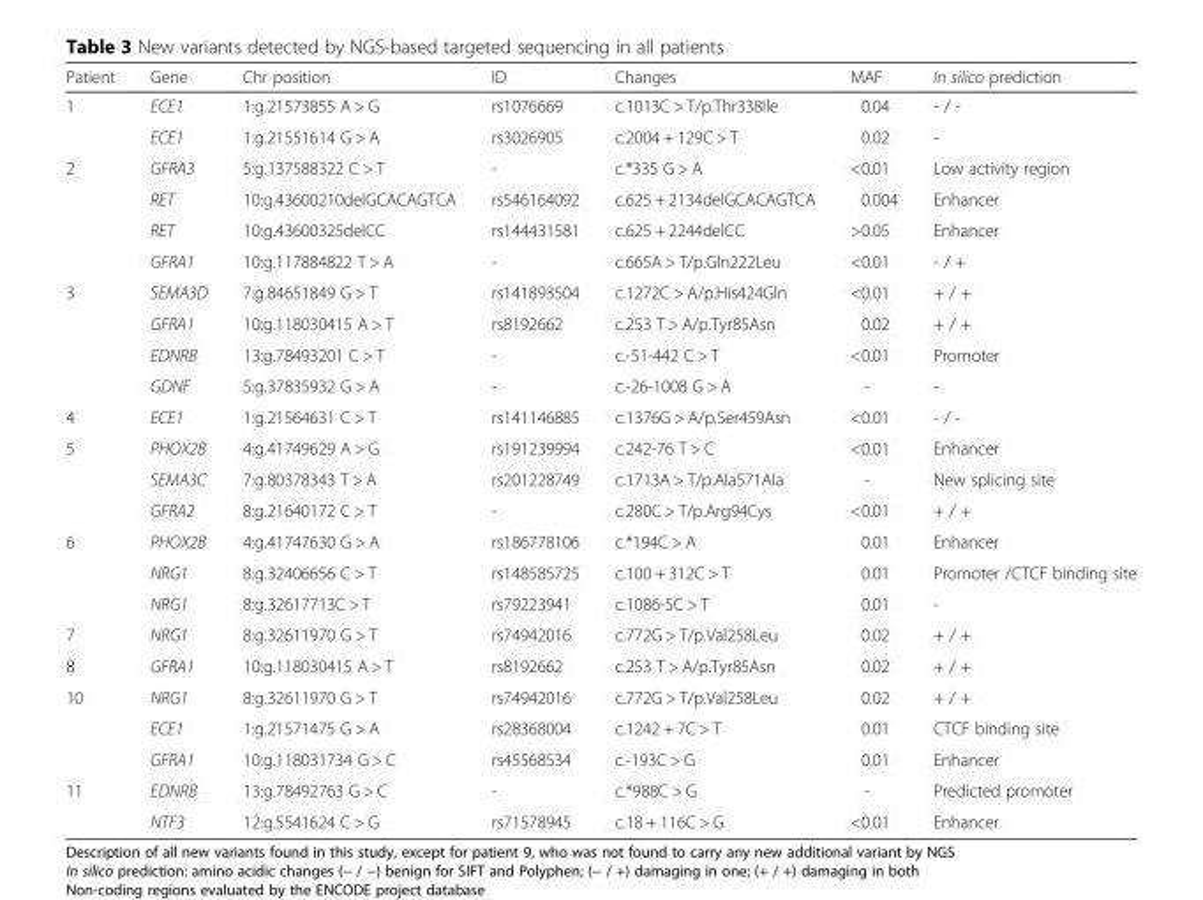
<table><thead><tr><td>Patient</td><td>Gene</td><td>Chr position</td><td>ID</td><td>Changes</td><td>MAF</td><td>In silico prediction</td></tr></thead><tbody><tr><td rowspan="2">1</td><td>ECE1</td><td>1:g.21573855 A &gt; G</td><td>rs1076669</td><td>c.1013C &gt; T/p.Thr338Ile</td><td>0.04</td><td>- / -</td></tr><tr><td>ECE1</td><td>1:g.21551614 G &gt; A</td><td>rs3026905</td><td>c.2004 + 129C &gt; T</td><td>0.02</td><td>-</td></tr><tr><td rowspan="4">2</td><td>GFRA3</td><td>5:g.137588322 C &gt; T</td><td>-</td><td>c.*335 G &gt; A</td><td>&lt;0.01</td><td>Low activity region</td></tr><tr><td>RET</td><td>10:g.43600210delGCACAGTCA</td><td>rs546164092</td><td>c.625 + 2134delGCACAGTCA</td><td>0.004</td><td>Enhancer</td></tr><tr><td>RET</td><td>10:g.43600325delCC</td><td>rs144431581</td><td>c.625 + 2244delCC</td><td>&gt;0.05</td><td>Enhancer</td></tr><tr><td>GFRA1</td><td>10:g.117884822 T &gt; A</td><td>-</td><td>c.665A &gt; T/p.Gln222Leu</td><td>&lt;0.01</td><td>- / +</td></tr><tr><td rowspan="4">3</td><td>SEMA3D</td><td>7:g.84651849 G &gt; T</td><td>rs141893504</td><td>c.1272C &gt; A/p.His424Gln</td><td>&lt;0.01</td><td>+ / +</td></tr><tr><td>GFRA1</td><td>10:g.118030415 A &gt; T</td><td>rs8192662</td><td>c.253 T &gt; A/p.Tyr85Asn</td><td>0.02</td><td>+ / +</td></tr><tr><td>EDNRB</td><td>13:g.78493201 C &gt; T</td><td>-</td><td>c.-51-442 C &gt; T</td><td>&lt;0.01</td><td>Promoter</td></tr><tr><td>GDNF</td><td>5:g.37835932 G &gt; A</td><td>-</td><td>c.-26-1008 G &gt; A</td><td>-</td><td>-</td></tr><tr><td>4</td><td>ECE1</td><td>1:g.21564631 C &gt; T</td><td>rs141146885</td><td>c.1376G &gt; A/p.Ser459Asn</td><td>&lt;0.01</td><td>- / -</td></tr><tr><td rowspan="3">5</td><td>PHOX2B</td><td>4:g.41749629 A &gt; G</td><td>rs191239994</td><td>c.242-76 T &gt; C</td><td>&lt;0.01</td><td>Enhancer</td></tr><tr><td>SEMA3C</td><td>7:g.80378343 T &gt; A</td><td>rs201228749</td><td>c.1713A &gt; T/p.Ala571Ala</td><td>-</td><td>New splicing site</td></tr><tr><td>GFRA2</td><td>8:g.21640172 C &gt; T</td><td>-</td><td>c.280C &gt; T/p.Arg94Cys</td><td>&lt;0.01</td><td>+ / +</td></tr><tr><td rowspan="3">6</td><td>PHOX2B</td><td>4:g.41747630 G &gt; A</td><td>rs186778106</td><td>c.*194C &gt; A</td><td>0.01</td><td>Enhancer</td></tr><tr><td>NRG1</td><td>8:g.32406656 C &gt; T</td><td>rs148585725</td><td>c.100 + 312C &gt; T</td><td>0.01</td><td>Promoter /CTCF binding site</td></tr><tr><td>NRG1</td><td>8:g.32617713C &gt; T</td><td>rs79223941</td><td>c.1086-5C &gt; T</td><td>0.01</td><td>-</td></tr><tr><td>7</td><td>NRG1</td><td>8:g.32611970 G &gt; T</td><td>rs74942016</td><td>c.772G &gt; T/p.Val258Leu</td><td>0.02</td><td>+ / +</td></tr><tr><td>8</td><td>GFRA1</td><td>10:g.118030415 A &gt; T</td><td>rs8192662</td><td>c.253 T &gt; A/p.Tyr85Asn</td><td>0.02</td><td>+ / +</td></tr><tr><td rowspan="3">10</td><td>NRG1</td><td>8:g.32611970 G &gt; T</td><td>rs74942016</td><td>c.772G &gt; T/p.Val258Leu</td><td>0.02</td><td>+ / +</td></tr><tr><td>ECE1</td><td>1:g.21571475 G &gt; A</td><td>rs28368004</td><td>c.1242 + 7C &gt; T</td><td>0.01</td><td>CTCF binding site</td></tr><tr><td>GFRA1</td><td>10:g.118031734 G &gt; C</td><td>rs45568534</td><td>c.-193C &gt; G</td><td>0.01</td><td>Enhancer</td></tr><tr><td rowspan="2">11</td><td>EDNRB</td><td>13:g.78492763 G &gt; C</td><td>-</td><td>c.*988C &gt; G</td><td>-</td><td>Predicted promoter</td></tr><tr><td>NTF3</td><td>12:g.5541624 C &gt; G</td><td>rs71578945</td><td>c.18 + 116C &gt; G</td><td>&lt;0.01</td><td>Enhancer</td></tr></tbody></table>